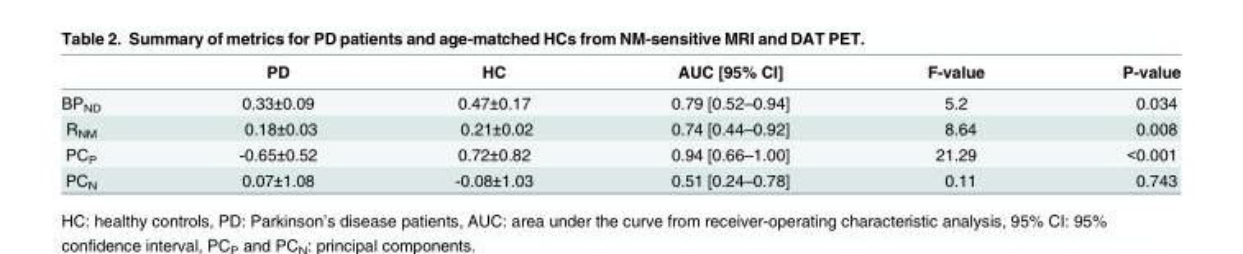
<table><thead><tr><td></td><td>PD</td><td>HC</td><td>AUC [95% CI]</td><td>F-value</td><td>P-value</td></tr></thead><tbody><tr><td>BP<sub>ND</sub></td><td>0.33±0.09</td><td>0.47±0.17</td><td>0.79 [0.52–0.94]</td><td>5.2</td><td>0.034</td></tr><tr><td>R<sub>NM</sub></td><td>0.18±0.03</td><td>0.21±0.02</td><td>0.74 [0.44–0.92]</td><td>8.64</td><td>0.008</td></tr><tr><td>PC<sub>P</sub></td><td>-0.65±0.52</td><td>0.72±0.82</td><td>0.94 [0.66–1.00]</td><td>21.29</td><td>&lt;0.001</td></tr><tr><td>PC<sub>N</sub></td><td>0.07±1.08</td><td>-0.08±1.03</td><td>0.51 [0.24–0.78]</td><td>0.11</td><td>0.743</td></tr></tbody></table>